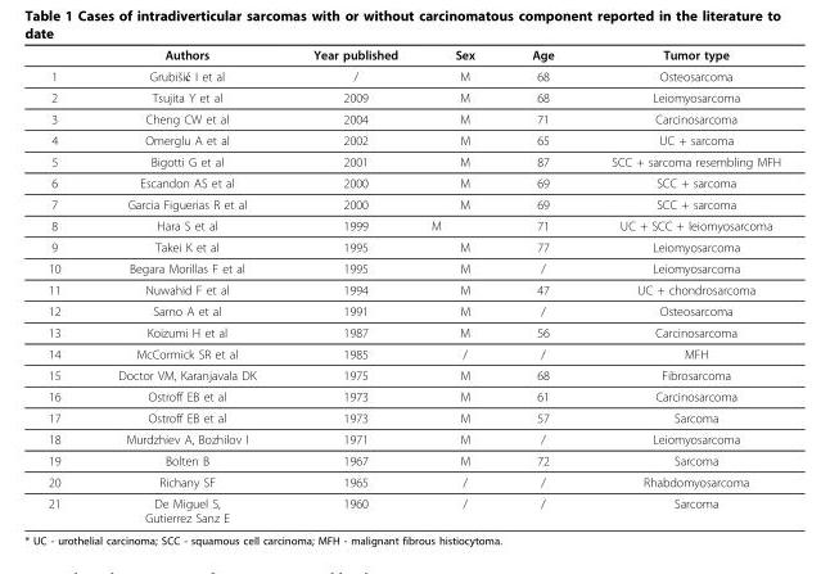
<table><thead><tr><td></td><td>Authors</td><td>Year published</td><td>Sex</td><td>Age</td><td>Tumor type</td></tr></thead><tbody><tr><td>1</td><td>Grubišić I et al</td><td>/</td><td>M</td><td>68</td><td>Osteosarcoma</td></tr><tr><td>2</td><td>Tsujita Y et al</td><td>2009</td><td>M</td><td>68</td><td>Leiomyosarcoma</td></tr><tr><td>3</td><td>Cheng CW et al</td><td>2004</td><td>M</td><td>71</td><td>Carcinosarcoma</td></tr><tr><td>4</td><td>Omerglu A et al</td><td>2002</td><td>M</td><td>65</td><td>UC + sarcoma</td></tr><tr><td>5</td><td>Bigotti G et al</td><td>2001</td><td>M</td><td>87</td><td>SCC + sarcoma resembling MFH</td></tr><tr><td>6</td><td>Escandon AS et al</td><td>2000</td><td>M</td><td>69</td><td>SCC + sarcoma</td></tr><tr><td>7</td><td>Garcia Figuerias R et al</td><td>2000</td><td>M</td><td>69</td><td>SCC + sarcoma</td></tr><tr><td>8</td><td>Hara S et al</td><td>1999</td><td>M</td><td>71</td><td>UC + SCC + leiomyosarcoma</td></tr><tr><td>9</td><td>Takei K et al</td><td>1995</td><td>M</td><td>77</td><td>Leiomyosarcoma</td></tr><tr><td>10</td><td>Begara Morillas F et al</td><td>1995</td><td>M</td><td>/</td><td>Leiomyosarcoma</td></tr><tr><td>11</td><td>Nuwahid F et al</td><td>1994</td><td>M</td><td>47</td><td>UC + chondrosarcoma</td></tr><tr><td>12</td><td>Sarno A et al</td><td>1991</td><td>M</td><td>/</td><td>Osteosarcoma</td></tr><tr><td>13</td><td>Koizumi H et al</td><td>1987</td><td>M</td><td>56</td><td>Carcinosarcoma</td></tr><tr><td>14</td><td>McCormick SR et al</td><td>1985</td><td>/</td><td>/</td><td>MFH</td></tr><tr><td>15</td><td>Doctor VM, Karanjavala DK</td><td>1975</td><td>M</td><td>68</td><td>Fibrosarcoma</td></tr><tr><td>16</td><td>Ostroff EB et al</td><td>1973</td><td>M</td><td>61</td><td>Carcinosarcoma</td></tr><tr><td>17</td><td>Ostroff EB et al</td><td>1973</td><td>M</td><td>57</td><td>Sarcoma</td></tr><tr><td>18</td><td>Murdzhiev A, Bozhilov I</td><td>1971</td><td>M</td><td>/</td><td>Leiomyosarcoma</td></tr><tr><td>19</td><td>Bolten B</td><td>1967</td><td>M</td><td>72</td><td>Sarcoma</td></tr><tr><td>20</td><td>Richany SF</td><td>1965</td><td>/</td><td>/</td><td>Rhabdomyosarcoma</td></tr><tr><td>21</td><td>De Miguel S, Gutierrez Sanz E</td><td>1960</td><td>/</td><td>/</td><td>Sarcoma</td></tr></tbody></table>